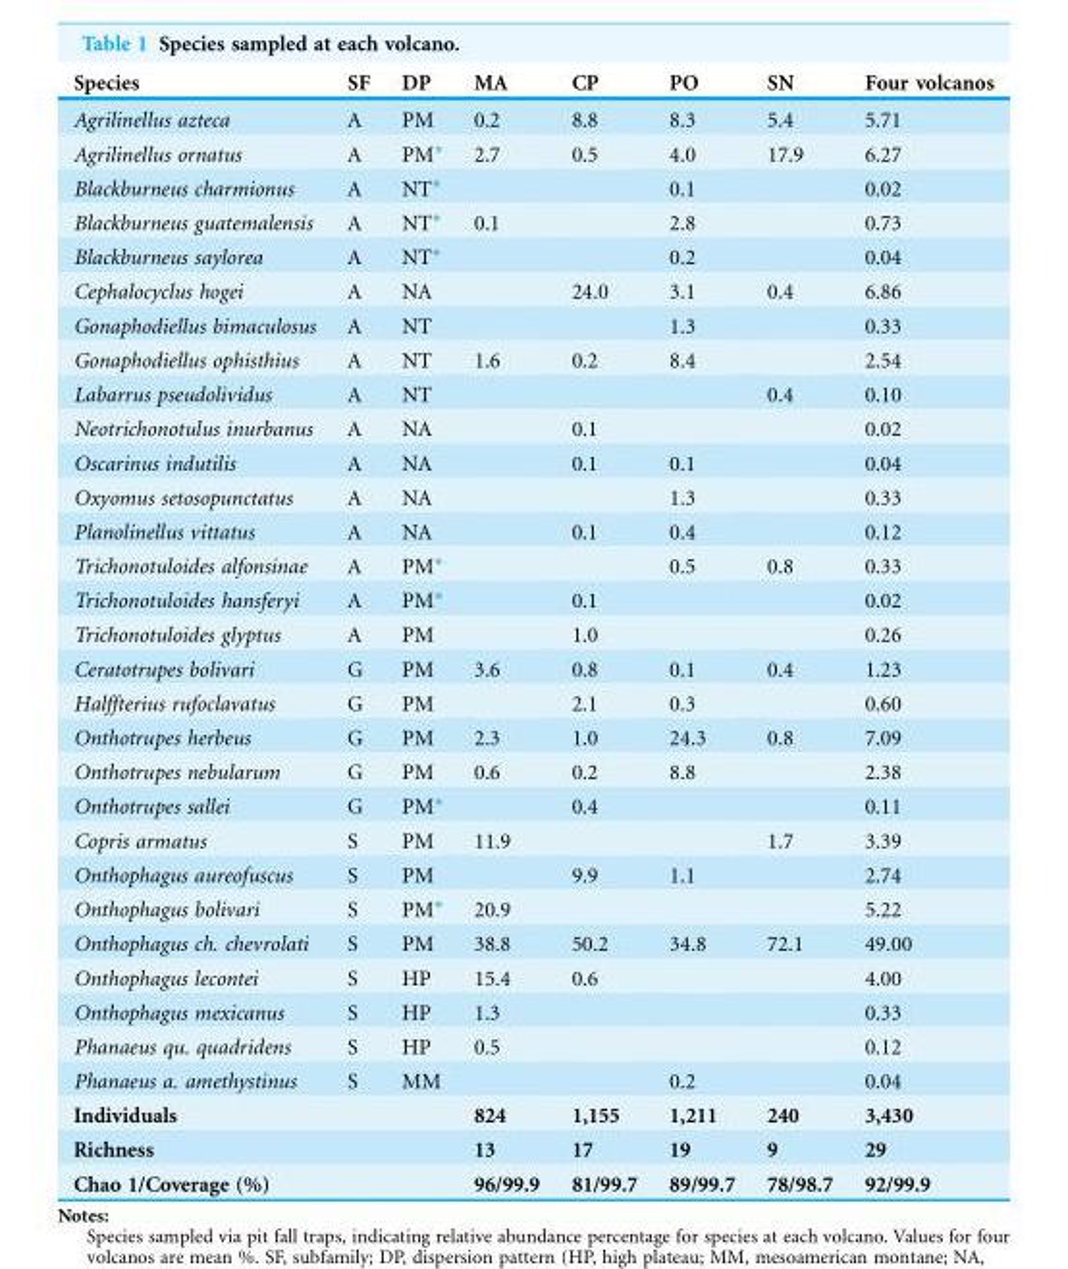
<table><thead><tr><td>Species</td><td>SF</td><td>DP</td><td>MA</td><td>CP</td><td>PO</td><td>SN</td><td>Four volcanos</td></tr></thead><tbody><tr><td>Agrilinellus azteca</td><td>A</td><td>PM</td><td>0.2</td><td>8.8</td><td>8.3</td><td>5.4</td><td>5.71</td></tr><tr><td>Agrilinellus ornatus</td><td>A</td><td>PM*</td><td>2.7</td><td>0.5</td><td>4.0</td><td>17.9</td><td>6.27</td></tr><tr><td>Blackburneus charmionus</td><td>A</td><td>NT*</td><td></td><td></td><td>0.1</td><td></td><td>0.02</td></tr><tr><td>Blackburneus guatemalensis</td><td>A</td><td>NT*</td><td>0.1</td><td></td><td>2.8</td><td></td><td>0.73</td></tr><tr><td>Blackburneus saylorea</td><td>A</td><td>NT*</td><td></td><td></td><td>0.2</td><td></td><td>0.04</td></tr><tr><td>Cephalocyclus hogei</td><td>A</td><td>NA</td><td></td><td>24.0</td><td>3.1</td><td>0.4</td><td>6.86</td></tr><tr><td>Gonaphodiellus bimaculosus</td><td>A</td><td>NT</td><td></td><td></td><td>1.3</td><td></td><td>0.33</td></tr><tr><td>Gonaphodiellus ophisthius</td><td>A</td><td>NT</td><td>1.6</td><td>0.2</td><td>8.4</td><td></td><td>2.54</td></tr><tr><td>Labarrus pseudolividus</td><td>A</td><td>NT</td><td></td><td></td><td></td><td>0.4</td><td>0.10</td></tr><tr><td>Neotrichonotulus inurbanus</td><td>A</td><td>NA</td><td></td><td>0.1</td><td></td><td></td><td>0.02</td></tr><tr><td>Oscarinus indutilis</td><td>A</td><td>NA</td><td></td><td>0.1</td><td>0.1</td><td></td><td>0.04</td></tr><tr><td>Oxyomus setosopunctatus</td><td>A</td><td>NA</td><td></td><td></td><td>1.3</td><td></td><td>0.33</td></tr><tr><td>Planolinellus vittatus</td><td>A</td><td>NA</td><td></td><td>0.1</td><td>0.4</td><td></td><td>0.12</td></tr><tr><td>Trichonotuloides alfonsinae</td><td>A</td><td>PM*</td><td></td><td></td><td>0.5</td><td>0.8</td><td>0.33</td></tr><tr><td>Trichonotuloides hansferyi</td><td>A</td><td>PM*</td><td></td><td>0.1</td><td></td><td></td><td>0.02</td></tr><tr><td>Trichonotuloides glyptus</td><td>A</td><td>PM</td><td></td><td>1.0</td><td></td><td></td><td>0.26</td></tr><tr><td>Ceratotrupes bolivari</td><td>G</td><td>PM</td><td>3.6</td><td>0.8</td><td>0.1</td><td>0.4</td><td>1.23</td></tr><tr><td>Halffterius rufoclavatus</td><td>G</td><td>PM</td><td></td><td>2.1</td><td>0.3</td><td></td><td>0.60</td></tr><tr><td>Onthotrupes herbeus</td><td>G</td><td>PM</td><td>2.3</td><td>1.0</td><td>24.3</td><td>0.8</td><td>7.09</td></tr><tr><td>Onthotrupes nebularum</td><td>G</td><td>PM</td><td>0.6</td><td>0.2</td><td>8.8</td><td></td><td>2.38</td></tr><tr><td>Onthotrupes sallei</td><td>G</td><td>PM*</td><td></td><td>0.4</td><td></td><td></td><td>0.11</td></tr><tr><td>Copris armatus</td><td>S</td><td>PM</td><td>11.9</td><td></td><td></td><td>1.7</td><td>3.39</td></tr><tr><td>Onthophagus aureofuscus</td><td>S</td><td>PM</td><td></td><td>9.9</td><td>1.1</td><td></td><td>2.74</td></tr><tr><td>Onthophagus bolivari</td><td>S</td><td>PM*</td><td>20.9</td><td></td><td></td><td></td><td>5.22</td></tr><tr><td>Onthophagus ch. chevrolati</td><td>S</td><td>PM</td><td>38.8</td><td>50.2</td><td>34.8</td><td>72.1</td><td>49.00</td></tr><tr><td>Onthophagus lecontei</td><td>S</td><td>HP</td><td>15.4</td><td>0.6</td><td></td><td></td><td>4.00</td></tr><tr><td>Onthophagus mexicanus</td><td>S</td><td>HP</td><td>1.3</td><td></td><td></td><td></td><td>0.33</td></tr><tr><td>Phanaeus qu. quadridens</td><td>S</td><td>HP</td><td>0.5</td><td></td><td></td><td></td><td>0.12</td></tr><tr><td>Phanaeus a. amethystinus</td><td>S</td><td>MM</td><td></td><td></td><td>0.2</td><td></td><td>0.04</td></tr><tr><td>Individuals</td><td></td><td></td><td>824</td><td>1,155</td><td>1,211</td><td>240</td><td>3,430</td></tr><tr><td>Richness</td><td></td><td></td><td>13</td><td>17</td><td>19</td><td>9</td><td>29</td></tr><tr><td>Chao 1/Coverage (%)</td><td></td><td></td><td>96/99.9</td><td>81/99.7</td><td>89/99.7</td><td>78/98.7</td><td>92/99.9</td></tr></tbody></table>